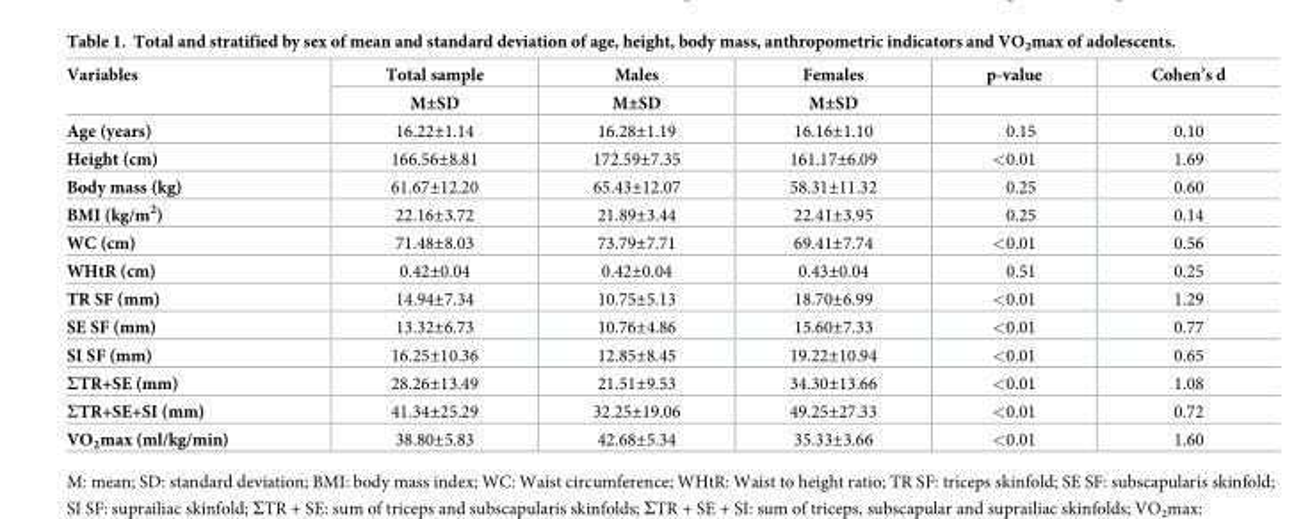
<table><thead><tr><td rowspan="2">Variables</td><td rowspan="2">Total sample M±SD</td><td rowspan="2">Males M±SD</td><td rowspan="2">Females M±SD</td><td rowspan="2">p-value</td><td rowspan="2">Cohen’s d</td></tr><tr></tr></thead><tbody><tr><td>Age (years)</td><td>16.22±1.14</td><td>16.28±1.19</td><td>16.16±1.10</td><td>0.15</td><td>0.10</td></tr><tr><td>Height (cm)</td><td>166.56±8.81</td><td>172.59±7.35</td><td>161.17±6.09</td><td>&lt;0.01</td><td>1.69</td></tr><tr><td>Body mass (kg)</td><td>61.67±12.20</td><td>65.43±12.07</td><td>58.31±11.32</td><td>0.25</td><td>0.60</td></tr><tr><td>BMI (kg/m<sup>2</sup>)</td><td>22.16±3.72</td><td>21.89±3.44</td><td>22.41±3.95</td><td>0.25</td><td>0.14</td></tr><tr><td>WC (cm)</td><td>71.48±8.03</td><td>73.79±7.71</td><td>69.41±7.74</td><td>&lt;0.01</td><td>0.56</td></tr><tr><td>WHtR (cm)</td><td>0.42±0.04</td><td>0.42±0.04</td><td>0.43±0.04</td><td>0.51</td><td>0.25</td></tr><tr><td>TR SF (mm)</td><td>14.94±7.34</td><td>10.75±5.13</td><td>18.70±6.99</td><td>&lt;0.01</td><td>1.29</td></tr><tr><td>SE SF (mm)</td><td>13.32±6.73</td><td>10.76±4.86</td><td>15.60±7.33</td><td>&lt;0.01</td><td>0.77</td></tr><tr><td>SI SF (mm)</td><td>16.25±10.36</td><td>12.85±8.45</td><td>19.22±10.94</td><td>&lt;0.01</td><td>0.65</td></tr><tr><td>ΣTR+SE (mm)</td><td>28.26±13.49</td><td>21.51±9.53</td><td>34.30±13.66</td><td>&lt;0.01</td><td>1.08</td></tr><tr><td>ΣTR+SE+SI (mm)</td><td>41.34±25.29</td><td>32.25±19.06</td><td>49.25±27.33</td><td>&lt;0.01</td><td>0.72</td></tr><tr><td>VO<sub>2</sub>max (ml/kg/min)</td><td>38.80±5.83</td><td>42.68±5.34</td><td>35.33±3.66</td><td>&lt;0.01</td><td>1.60</td></tr></tbody></table>